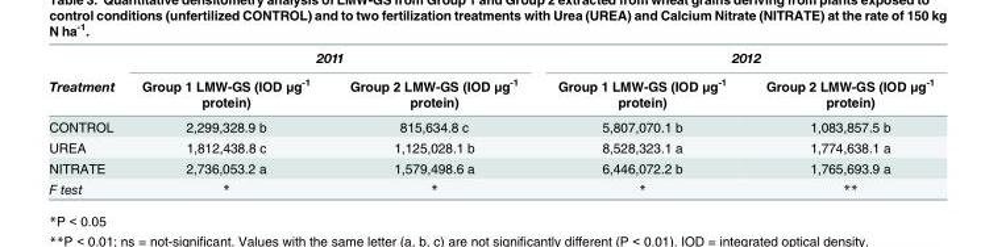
<table><thead><tr><td rowspan="2">Treatment</td><td colspan="2">2011</td><td colspan="2">2012</td></tr><tr><td>Group 1 LMW-GS (IOD μg<sup>-1</sup> protein)</td><td>Group 2 LMW-GS (IOD μg<sup>-1</sup> protein)</td><td>Group 1 LMW-GS (IOD μg<sup>-1</sup> protein)</td><td>Group 2 LMW-GS (IOD μg<sup>-1</sup> protein)</td></tr></thead><tbody><tr><td>CONTROL</td><td>2,299,328.9 b</td><td>815,634.8 c</td><td>5,807,070.1 b</td><td>1,083,857.5 b</td></tr><tr><td>UREA</td><td>1,812,438.8 c</td><td>1,125,028.1 b</td><td>8,528,323.1 a</td><td>1,774,638.1 a</td></tr><tr><td>NITRATE</td><td>2,736,053.2 a</td><td>1,579,498.6 a</td><td>6,446,072.2 b</td><td>1,765,693.9 a</td></tr><tr><td>F test</td><td>*</td><td>*</td><td>*</td><td>**</td></tr></tbody></table>